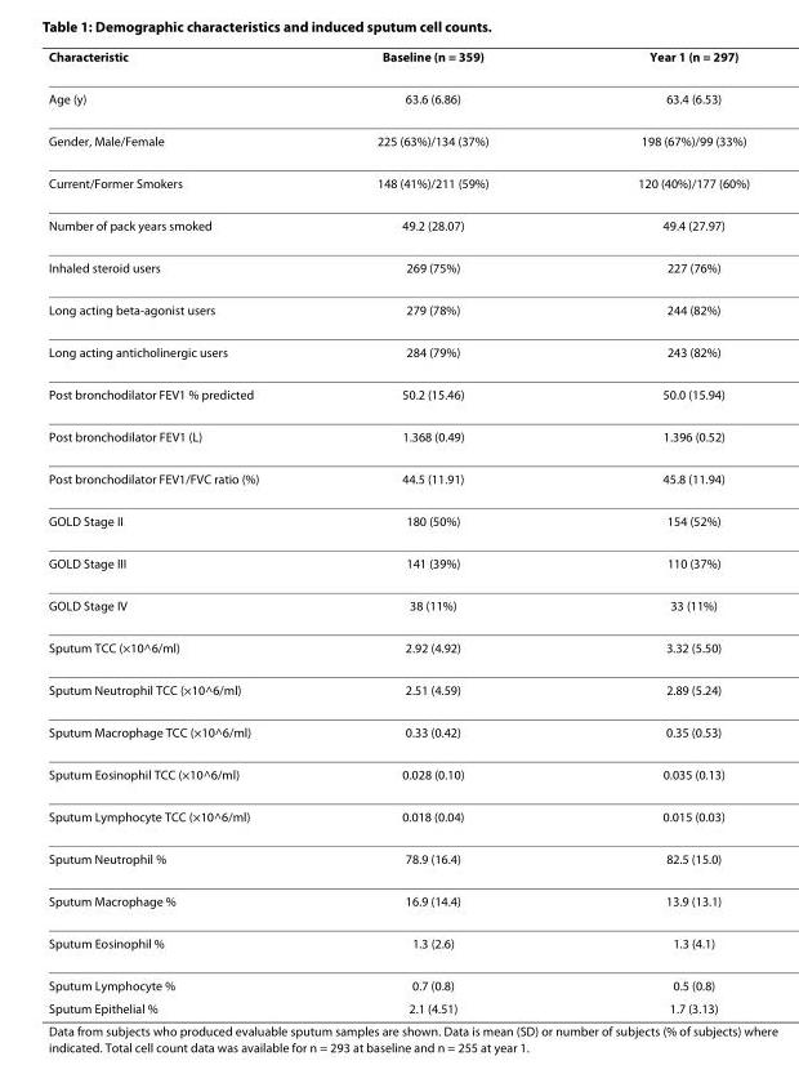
<table><thead><tr><td>Characteristic</td><td>Baseline (n = 359)</td><td>Year 1 (n = 297)</td></tr></thead><tbody><tr><td>Age (y)</td><td>63.6 (6.86)</td><td>63.4 (6.53)</td></tr><tr><td>Gender, Male/Female</td><td>225 (63%)/134 (37%)</td><td>198 (67%)/99 (33%)</td></tr><tr><td>Current/Former Smokers</td><td>148 (41%)/211 (59%)</td><td>120 (40%)/177 (60%)</td></tr><tr><td>Number of pack years smoked</td><td>49.2 (28.07)</td><td>49.4 (27.97)</td></tr><tr><td>Inhaled steroid users</td><td>269 (75%)</td><td>227 (76%)</td></tr><tr><td>Long acting beta-agonist users</td><td>279 (78%)</td><td>244 (82%)</td></tr><tr><td>Long acting anticholinergic users</td><td>284 (79%)</td><td>243 (82%)</td></tr><tr><td>Post bronchodilator FEV1 % predicted</td><td>50.2 (15.46)</td><td>50.0 (15.94)</td></tr><tr><td>Post bronchodilator FEV1 (L)</td><td>1.368 (0.49)</td><td>1.396 (0.52)</td></tr><tr><td>Post bronchodilator FEV1/FVC ratio (%)</td><td>44.5 (11.91)</td><td>45.8 (11.94)</td></tr><tr><td>GOLD Stage II</td><td>180 (50%)</td><td>154 (52%)</td></tr><tr><td>GOLD Stage III</td><td>141 (39%)</td><td>110 (37%)</td></tr><tr><td>GOLD Stage IV</td><td>38 (11%)</td><td>33 (11%)</td></tr><tr><td>Sputum TCC (×10^6/ml)</td><td>2.92 (4.92)</td><td>3.32 (5.50)</td></tr><tr><td>Sputum Neutrophil TCC (×10^6/ml)</td><td>2.51 (4.59)</td><td>2.89 (5.24)</td></tr><tr><td>Sputum Macrophage TCC (×10^6/ml)</td><td>0.33 (0.42)</td><td>0.35 (0.53)</td></tr><tr><td>Sputum Eosinophil TCC (×10^6/ml)</td><td>0.028 (0.10)</td><td>0.035 (0.13)</td></tr><tr><td>Sputum Lymphocyte TCC (×10^6/ml)</td><td>0.018 (0.04)</td><td>0.015 (0.03)</td></tr><tr><td>Sputum Neutrophil %</td><td>78.9 (16.4)</td><td>82.5 (15.0)</td></tr><tr><td>Sputum Macrophage %</td><td>16.9 (14.4)</td><td>13.9 (13.1)</td></tr><tr><td>Sputum Eosinophil %</td><td>1.3 (2.6)</td><td>1.3 (4.1)</td></tr><tr><td>Sputum Lymphocyte %</td><td>0.7 (0.8)</td><td>0.5 (0.8)</td></tr><tr><td>Sputum Epithelial %</td><td>2.1 (4.51)</td><td>1.7 (3.13)</td></tr></tbody></table>